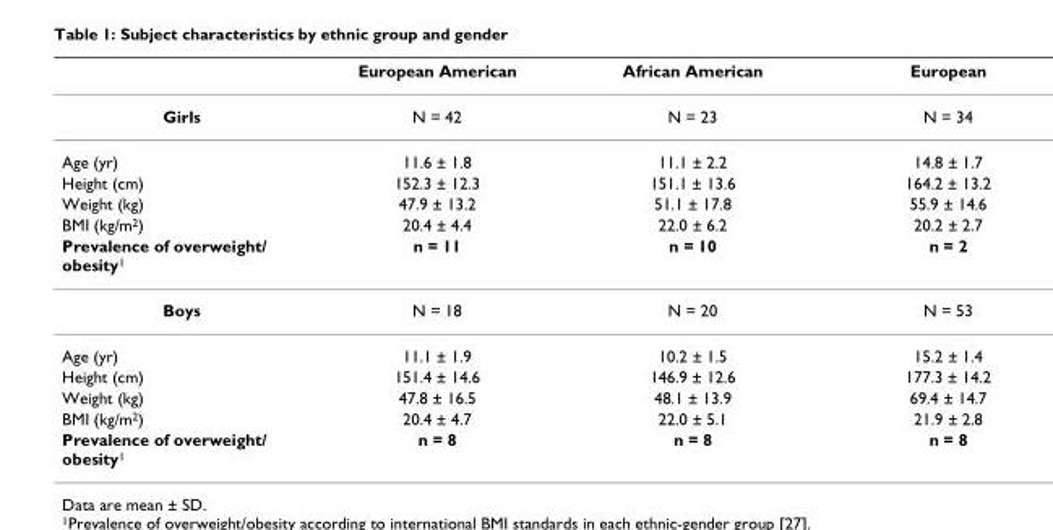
<table><thead><tr><td></td><td>European American</td><td>African American</td><td>European</td></tr></thead><tbody><tr><td>Girls</td><td>N = 42</td><td>N = 23</td><td>N = 34</td></tr><tr><td>Age (yr)</td><td>11.6 ± 1.8</td><td>11.1 ± 2.2</td><td>14.8 ± 1.7</td></tr><tr><td>Height (cm)</td><td>152.3 ± 12.3</td><td>151.1 ± 13.6</td><td>164.2 ± 13.2</td></tr><tr><td>Weight (kg)</td><td>47.9 ± 13.2</td><td>51.1 ± 17.8</td><td>55.9 ± 14.6</td></tr><tr><td>BMI (kg/m<sup>2</sup>)</td><td>20.4 ± 4.4</td><td>22.0 ± 6.2</td><td>20.2 ± 2.7</td></tr><tr><td>Prevalence of overweight/ obesity<sup>1</sup></td><td>n = 11</td><td>n = 10</td><td>n = 2</td></tr><tr><td>Boys</td><td>N = 18</td><td>N = 20</td><td>N = 53</td></tr><tr><td>Age (yr)</td><td>11.1 ± 1.9</td><td>10.2 ± 1.5</td><td>15.2 ± 1.4</td></tr><tr><td>Height (cm)</td><td>151.4 ± 14.6</td><td>146.9 ± 12.6</td><td>177.3 ± 14.2</td></tr><tr><td>Weight (kg)</td><td>47.8 ± 16.5</td><td>48.1 ± 13.9</td><td>69.4 ± 14.7</td></tr><tr><td>BMI (kg/m<sup>2</sup>)</td><td>20.4 ± 4.7</td><td>22.0 ± 5.1</td><td>21.9 ± 2.8</td></tr><tr><td>Prevalence of overweight/ obesity<sup>1</sup></td><td>n = 8</td><td>n = 8</td><td>n = 8</td></tr></tbody></table>